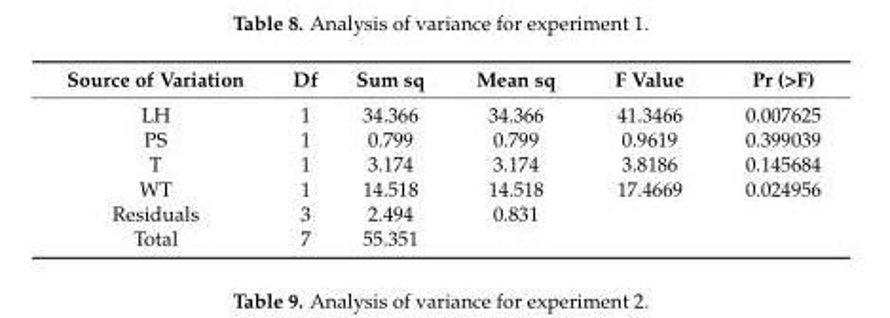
<table><thead><tr><td>Source of Variation</td><td>Df</td><td>Sum sq</td><td>Mean sq</td><td>F Value</td><td>Pr (&gt;F)</td></tr></thead><tbody><tr><td>LH</td><td>1</td><td>34.366</td><td>34.366</td><td>41.3466</td><td>0.007625</td></tr><tr><td>PS</td><td>1</td><td>0.799</td><td>0.799</td><td>0.9619</td><td>0.399039</td></tr><tr><td>T</td><td>1</td><td>3.174</td><td>3.174</td><td>3.8186</td><td>0.145684</td></tr><tr><td>WT</td><td>1</td><td>14.518</td><td>14.518</td><td>17.4669</td><td>0.024956</td></tr><tr><td>Residuals</td><td>3</td><td>2.494</td><td>0.831</td><td></td><td></td></tr><tr><td>Total</td><td>7</td><td>55.351</td><td></td><td></td><td></td></tr></tbody></table>